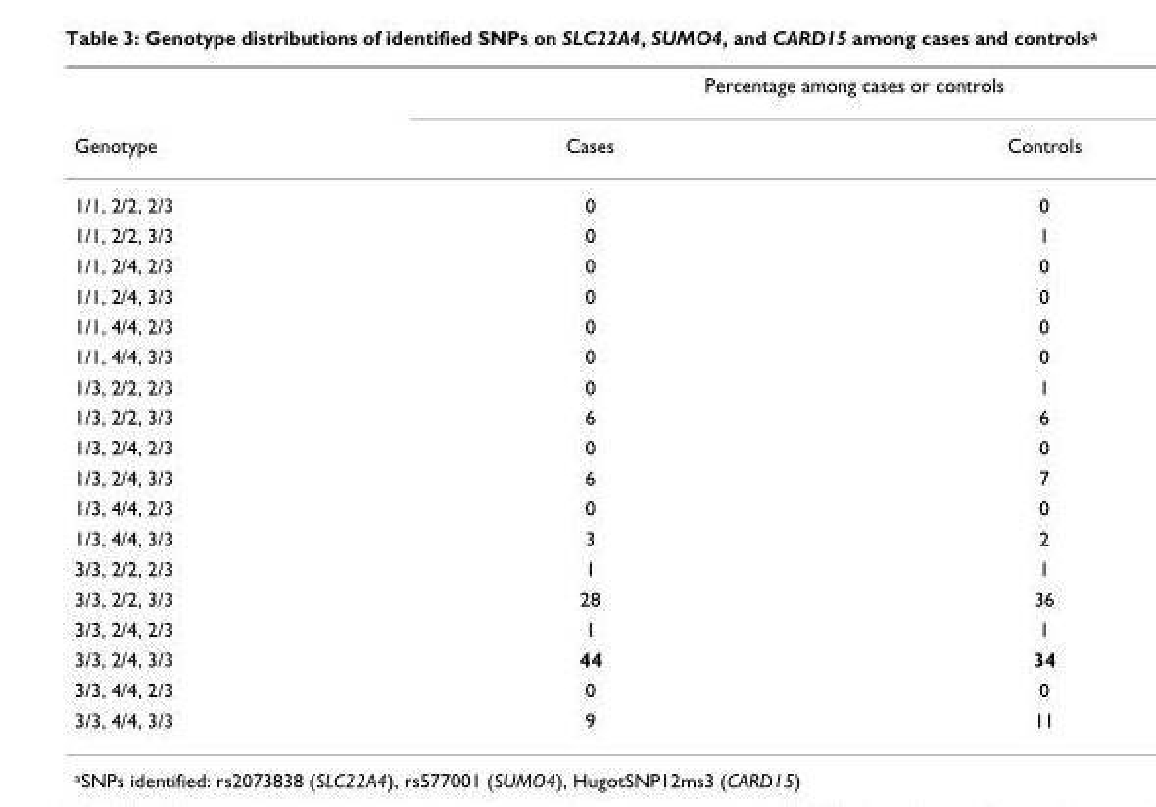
<table><thead><tr><td rowspan="2">Genotype</td><td colspan="2">Percentage among cases or controls</td></tr><tr><td>Cases</td><td>Controls</td></tr></thead><tbody><tr><td>1/1, 2/2, 2/3</td><td>0</td><td>0</td></tr><tr><td>1/1, 2/2, 3/3</td><td>0</td><td>1</td></tr><tr><td>1/1, 2/4, 2/3</td><td>0</td><td>0</td></tr><tr><td>1/1, 2/4, 3/3</td><td>0</td><td>0</td></tr><tr><td>1/1, 4/4, 2/3</td><td>0</td><td>0</td></tr><tr><td>1/1, 4/4, 3/3</td><td>0</td><td>0</td></tr><tr><td>1/3, 2/2, 2/3</td><td>0</td><td>1</td></tr><tr><td>1/3, 2/2, 3/3</td><td>6</td><td>6</td></tr><tr><td>1/3, 2/4, 2/3</td><td>0</td><td>0</td></tr><tr><td>1/3, 2/4, 3/3</td><td>6</td><td>7</td></tr><tr><td>1/3, 4/4, 2/3</td><td>0</td><td>0</td></tr><tr><td>1/3, 4/4, 3/3</td><td>3</td><td>2</td></tr><tr><td>3/3, 2/2, 2/3</td><td>1</td><td>1</td></tr><tr><td>3/3, 2/2, 3/3</td><td>28</td><td>36</td></tr><tr><td>3/3, 2/4, 2/3</td><td>1</td><td>1</td></tr><tr><td>3/3, 2/4, 3/3</td><td>44</td><td>34</td></tr><tr><td>3/3, 4/4, 2/3</td><td>0</td><td>0</td></tr><tr><td>3/3, 4/4, 3/3</td><td>9</td><td>11</td></tr></tbody></table>